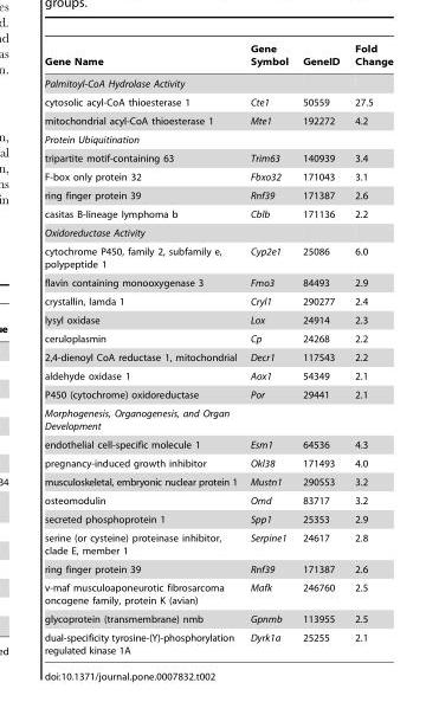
<table><thead><tr><td>Gene Name</td><td>Gene Symbol</td><td>GeneID</td><td>Fold Change</td></tr></thead><tbody><tr><td colspan="4">Palmitoyl-CoA Hydrolase Activity</td></tr><tr><td>cytosolic acyl-CoA thioesterase 1</td><td>Cte1</td><td>50559</td><td>27.5</td></tr><tr><td>mitochondrial acyl-CoA thioesterase 1</td><td>Mte1</td><td>192272</td><td>4.2</td></tr><tr><td colspan="4">Protein Ubiquitination</td></tr><tr><td>tripartite motif-containing 63</td><td>Trim63</td><td>140939</td><td>3.4</td></tr><tr><td>F-box only protein 32</td><td>Fbxo32</td><td>171043</td><td>3.1</td></tr><tr><td>ring finger protein 39</td><td>Rnf39</td><td>171387</td><td>2.6</td></tr><tr><td>casitas B-lineage lymphoma b</td><td>Cblb</td><td>171136</td><td>2.2</td></tr><tr><td colspan="4">Oxidoreductase Activity</td></tr><tr><td>cytochrome P450, family 2, subfamily e, polypeptide 1</td><td>Cyp2e1</td><td>25086</td><td>6.0</td></tr><tr><td>flavin containing monooxygenase 3</td><td>Fmo3</td><td>84493</td><td>2.9</td></tr><tr><td>crystallin, lamda 1</td><td>Cryl1</td><td>290277</td><td>2.4</td></tr><tr><td>lysyl oxidase</td><td>Lox</td><td>24914</td><td>2.3</td></tr><tr><td>ceruloplasmin</td><td>Cp</td><td>24268</td><td>2.2</td></tr><tr><td>2,4-dienoyl CoA reductase 1, mitochondrial</td><td>Decr1</td><td>117543</td><td>2.2</td></tr><tr><td>aldehyde oxidase 1</td><td>Aox1</td><td>54349</td><td>2.1</td></tr><tr><td>P450 (cytochrome) oxidoreductase</td><td>Por</td><td>29441</td><td>2.1</td></tr><tr><td colspan="4">Morphogenesis, Organogenesis, and Organ Development</td></tr><tr><td>endothelial cell-specific molecule 1</td><td>Esm1</td><td>64536</td><td>4.3</td></tr><tr><td>pregnancy-induced growth inhibitor</td><td>Okl38</td><td>171493</td><td>4.0</td></tr><tr><td>musculoskeletal, embryonic nuclear protein 1</td><td>Mustn1</td><td>290553</td><td>3.2</td></tr><tr><td>osteomodulin</td><td>Omd</td><td>83717</td><td>3.2</td></tr><tr><td>secreted phosphoprotein 1</td><td>Spp1</td><td>25353</td><td>2.9</td></tr><tr><td>serine (or cysteine) proteinase inhibitor, clade E, member 1</td><td>Serpine1</td><td>24617</td><td>2.8</td></tr><tr><td>ring finger protein 39</td><td>Rnf39</td><td>171387</td><td>2.6</td></tr><tr><td>v-maf musculoaponeurotic fibrosarcoma oncogene family, protein K (avian)</td><td>Mafk</td><td>246760</td><td>2.5</td></tr><tr><td>glycoprotein (transmembrane) nmb</td><td>Gpnmb</td><td>113955</td><td>2.5</td></tr><tr><td>dual-specificity tyrosine-(Y)-phosphorylation regulated kinase 1A</td><td>Dyrk1a</td><td>25255</td><td>2.1</td></tr></tbody></table>